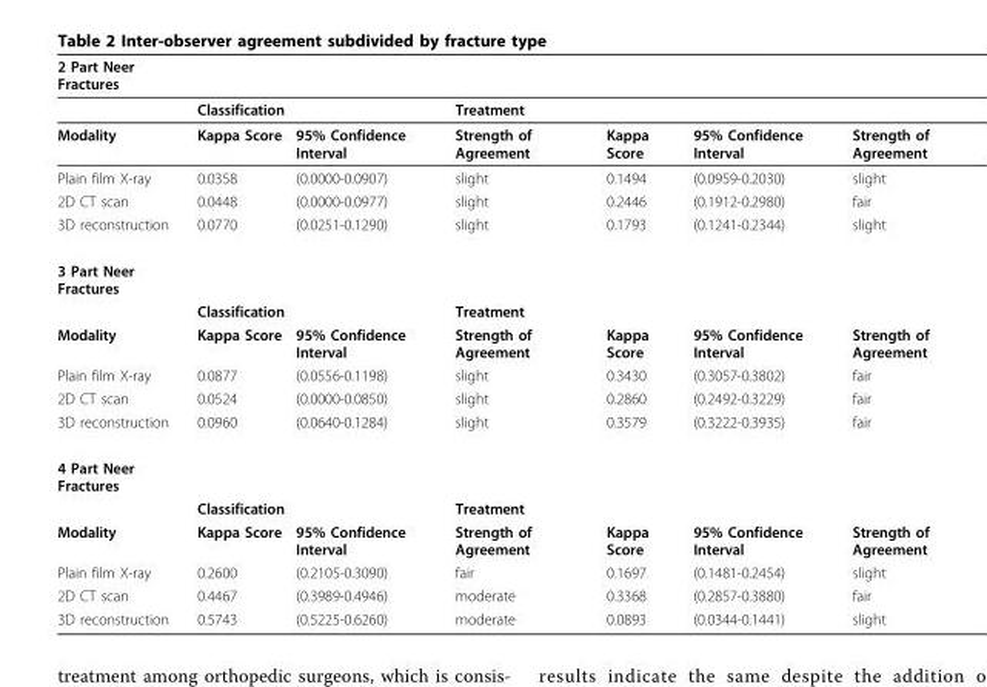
<table><thead><tr><td>2 Part Neer Fractures</td><td></td><td></td><td></td><td></td><td></td><td></td></tr></thead><tbody><tr><td></td><td>Classification</td><td></td><td>Treatment</td><td></td><td></td><td></td></tr><tr><td>Modality</td><td>Kappa Score</td><td>95% Confidence Interval</td><td>Strength of Agreement</td><td>Kappa Score</td><td>95% Confidence Interval</td><td>Strength of Agreement</td></tr><tr><td>Plain film X-ray</td><td>0.0358</td><td>(0.0000-0.0907)</td><td>slight</td><td>0.1494</td><td>(0.0959-0.2030)</td><td>slight</td></tr><tr><td>2D CT scan</td><td>0.0448</td><td>(0.0000-0.0977)</td><td>slight</td><td>0.2446</td><td>(0.1912-0.2980)</td><td>fair</td></tr><tr><td>3D reconstruction</td><td>0.0770</td><td>(0.0251-0.1290)</td><td>slight</td><td>0.1793</td><td>(0.1241-0.2344)</td><td>slight</td></tr><tr><td colspan="7">3 Part Neer Fractures</td></tr><tr><td></td><td>Classification</td><td></td><td>Treatment</td><td></td><td></td><td></td></tr><tr><td>Modality</td><td>Kappa Score</td><td>95% Confidence Interval</td><td>Strength of Agreement</td><td>Kappa Score</td><td>95% Confidence Interval</td><td>Strength of Agreement</td></tr><tr><td>Plain film X-ray</td><td>0.0877</td><td>(0.0556-0.1198)</td><td>slight</td><td>0.3430</td><td>(0.3057-0.3802)</td><td>fair</td></tr><tr><td>2D CT scan</td><td>0.0524</td><td>(0.0000-0.0850)</td><td>slight</td><td>0.2860</td><td>(0.2492-0.3229)</td><td>fair</td></tr><tr><td>3D reconstruction</td><td>0.0960</td><td>(0.0640-0.1284)</td><td>slight</td><td>0.3579</td><td>(0.3222-0.3935)</td><td>fair</td></tr><tr><td colspan="7">4 Part Neer Fractures</td></tr><tr><td></td><td>Classification</td><td></td><td>Treatment</td><td></td><td></td><td></td></tr><tr><td>Modality</td><td>Kappa Score</td><td>95% Confidence Interval</td><td>Strength of Agreement</td><td>Kappa Score</td><td>95% Confidence Interval</td><td>Strength of Agreement</td></tr><tr><td>Plain film X-ray</td><td>0.2600</td><td>(0.2105-0.3090)</td><td>fair</td><td>0.1697</td><td>(0.1481-0.2454)</td><td>slight</td></tr><tr><td>2D CT scan</td><td>0.4467</td><td>(0.3989-0.4946)</td><td>moderate</td><td>0.3368</td><td>(0.2857-0.3880)</td><td>fair</td></tr><tr><td>3D reconstruction</td><td>0.5743</td><td>(0.5225-0.6260)</td><td>moderate</td><td>0.0893</td><td>(0.0344-0.1441)</td><td>slight</td></tr></tbody></table>